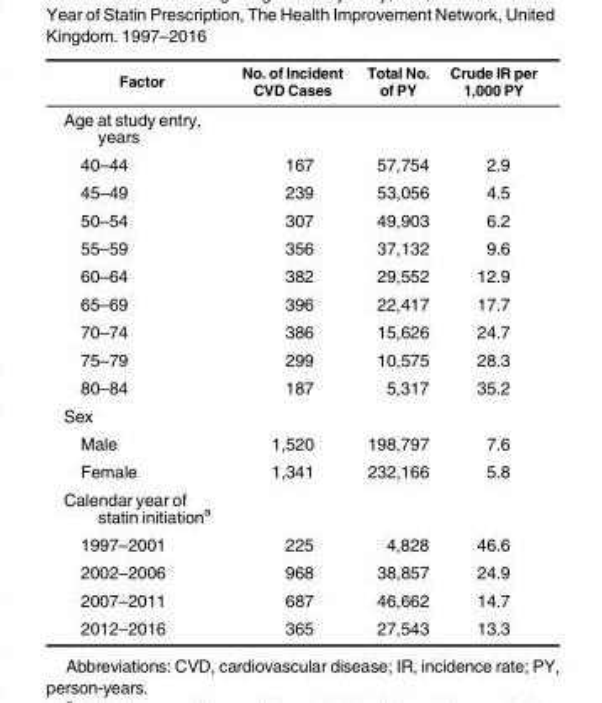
<table><thead><tr><td>Factor</td><td>No. of Incident CVD Cases</td><td>Total No. of PY</td><td>Crude IR per 1,000 PY</td></tr></thead><tbody><tr><td colspan="4">Age at study entry, years</td></tr><tr><td>40–44</td><td>167</td><td>57,754</td><td>2.9</td></tr><tr><td>45–49</td><td>239</td><td>53,056</td><td>4.5</td></tr><tr><td>50–54</td><td>307</td><td>49,903</td><td>6.2</td></tr><tr><td>55–59</td><td>356</td><td>37,132</td><td>9.6</td></tr><tr><td>60–64</td><td>382</td><td>29,552</td><td>12.9</td></tr><tr><td>65–69</td><td>396</td><td>22,417</td><td>17.7</td></tr><tr><td>70–74</td><td>386</td><td>15,626</td><td>24.7</td></tr><tr><td>75–79</td><td>299</td><td>10,575</td><td>28.3</td></tr><tr><td>80–84</td><td>187</td><td>5,317</td><td>35.2</td></tr><tr><td colspan="4">Sex</td></tr><tr><td>Male</td><td>1,520</td><td>198,797</td><td>7.6</td></tr><tr><td>Female</td><td>1,341</td><td>232,166</td><td>5.8</td></tr><tr><td colspan="4">Calendar year of statin initiation<sup>a</sup></td></tr><tr><td>1997–2001</td><td>225</td><td>4,828</td><td>46.6</td></tr><tr><td>2002–2006</td><td>968</td><td>38,857</td><td>24.9</td></tr><tr><td>2007–2011</td><td>687</td><td>46,662</td><td>14.7</td></tr><tr><td>2012–2016</td><td>365</td><td>27,543</td><td>13.3</td></tr></tbody></table>